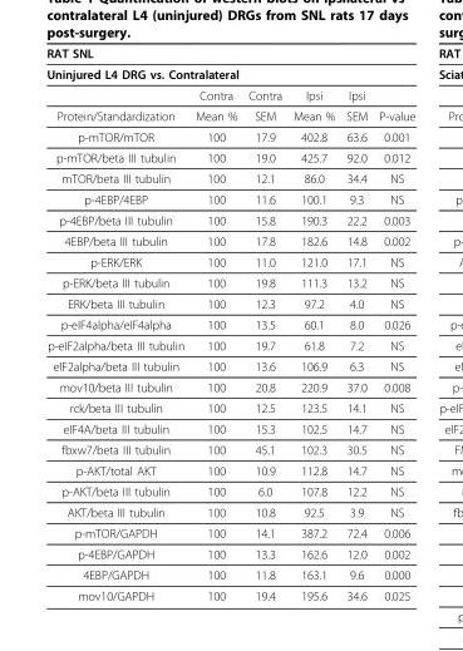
<table><thead><tr><td rowspan="2" colspan="6">RAT SNL Uninjured L4 DRG vs. Contralateral</td></tr><tr></tr><tr><td></td><td>Contra</td><td>Contra</td><td>Ipsi</td><td>Ipsi</td><td></td></tr></thead><tbody><tr><td>Protein/Standardization</td><td>Mean %</td><td>SEM</td><td>Mean %</td><td>SEM</td><td>P-value</td></tr><tr><td>p-mTOR/mTOR</td><td>100</td><td>17.9</td><td>402.8</td><td>63.6</td><td>0.001</td></tr><tr><td>p-mTOR/beta III tubulin</td><td>100</td><td>19.0</td><td>425.7</td><td>92.0</td><td>0.012</td></tr><tr><td>mTOR/beta III tubulin</td><td>100</td><td>12.1</td><td>86.0</td><td>34.4</td><td>NS</td></tr><tr><td>p-4EBP/4EBP</td><td>100</td><td>11.6</td><td>100.1</td><td>9.3</td><td>NS</td></tr><tr><td>p-4EBP/beta III tubulin</td><td>100</td><td>15.8</td><td>190.3</td><td>22.2</td><td>0.003</td></tr><tr><td>4EBP/beta III tubulin</td><td>100</td><td>17.8</td><td>182.6</td><td>14.8</td><td>0.002</td></tr><tr><td>p-ERK/ERK</td><td>100</td><td>11.0</td><td>121.0</td><td>17.1</td><td>NS</td></tr><tr><td>p-ERK/beta III tubulin</td><td>100</td><td>19.8</td><td>111.3</td><td>13.2</td><td>NS</td></tr><tr><td>ERK/beta III tubulin</td><td>100</td><td>12.3</td><td>97.2</td><td>4.0</td><td>NS</td></tr><tr><td>p-eIF4alpha/eIF4alpha</td><td>100</td><td>13.5</td><td>60.1</td><td>8.0</td><td>0.026</td></tr><tr><td>p-eIF2alpha/beta III tubulin</td><td>100</td><td>19.7</td><td>61.8</td><td>7.2</td><td>NS</td></tr><tr><td>eIF2alpha/beta III tubulin</td><td>100</td><td>13.6</td><td>106.9</td><td>6.3</td><td>NS</td></tr><tr><td>mov10/beta III tubulin</td><td>100</td><td>20.8</td><td>220.9</td><td>37.0</td><td>0.008</td></tr><tr><td>rck/beta III tubulin</td><td>100</td><td>12.5</td><td>123.5</td><td>14.1</td><td>NS</td></tr><tr><td>eIF4A/beta III tubulin</td><td>100</td><td>15.3</td><td>102.5</td><td>14.7</td><td>NS</td></tr><tr><td>fbxw7/beta III tubulin</td><td>100</td><td>45.1</td><td>102.3</td><td>30.5</td><td>NS</td></tr><tr><td>p-AKT/total AKT</td><td>100</td><td>10.9</td><td>112.8</td><td>14.7</td><td>NS</td></tr><tr><td>p-AKT/beta III tubulin</td><td>100</td><td>6.0</td><td>107.8</td><td>12.2</td><td>NS</td></tr><tr><td>AKT/beta III tubulin</td><td>100</td><td>10.8</td><td>92.5</td><td>3.9</td><td>NS</td></tr><tr><td>p-mTOR/GAPDH</td><td>100</td><td>14.1</td><td>387.2</td><td>72.4</td><td>0.006</td></tr><tr><td>p-4EBP/GAPDH</td><td>100</td><td>13.3</td><td>162.6</td><td>12.0</td><td>0.002</td></tr><tr><td>4EBP/GAPDH</td><td>100</td><td>11.8</td><td>163.1</td><td>9.6</td><td>0.000</td></tr><tr><td>mov10/GAPDH</td><td>100</td><td>19.4</td><td>195.6</td><td>34.6</td><td>0.025</td></tr></tbody></table>